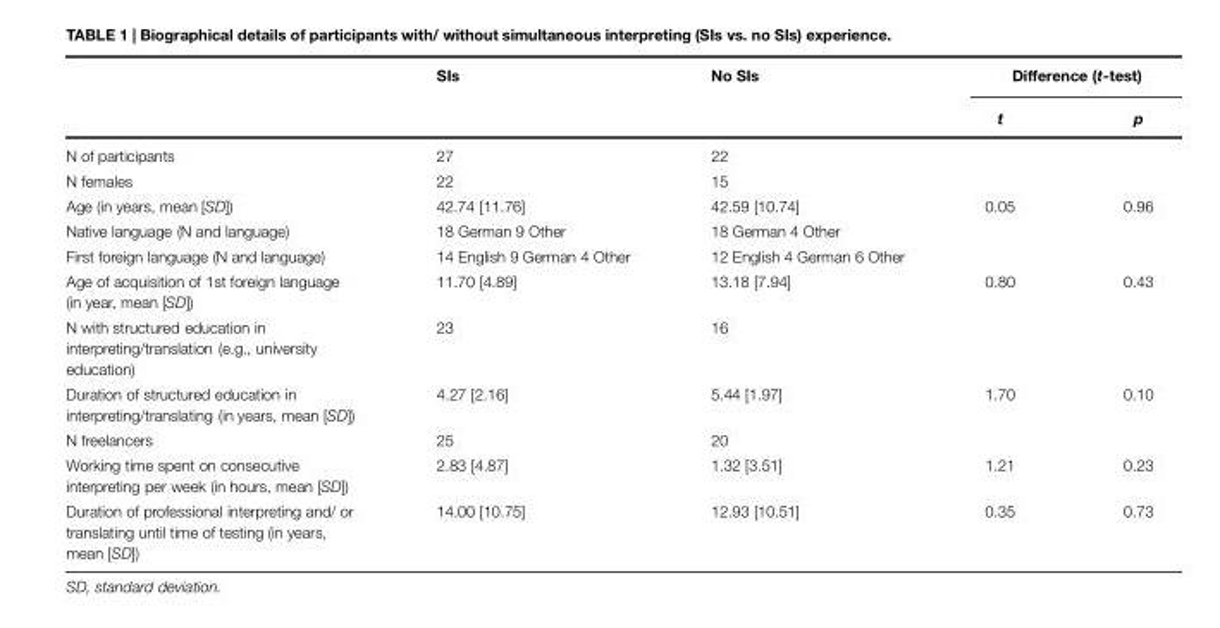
<table><thead><tr><td rowspan="2"></td><td rowspan="2">SIs</td><td rowspan="2">No SIs</td><td colspan="2">Difference (t-test)</td></tr><tr><td>t</td><td>p</td></tr></thead><tbody><tr><td>N of participants</td><td>27</td><td>22</td><td></td><td></td></tr><tr><td>N females</td><td>22</td><td>15</td><td></td><td></td></tr><tr><td>Age (in years, mean [SD])</td><td>42.74 [11.76]</td><td>42.59 [10.74]</td><td>0.05</td><td>0.96</td></tr><tr><td>Native language (N and language)</td><td>18 German 9 Other</td><td>18 German 4 Other</td><td></td><td></td></tr><tr><td>First foreign language (N and language)</td><td>14 English 9 German 4 Other</td><td>12 English 4 German 6 Other</td><td></td><td></td></tr><tr><td>Age of acquisition of 1st foreign language (in year, mean [SD])</td><td>11.70 [4.89]</td><td>13.18 [7.94]</td><td>0.80</td><td>0.43</td></tr><tr><td>N with structured education in interpreting/translation (e.g., university education)</td><td>23</td><td>16</td><td></td><td></td></tr><tr><td>Duration of structured education in interpreting/translating (in years, mean [SD])</td><td>4.27 [2.16]</td><td>5.44 [1.97]</td><td>1.70</td><td>0.10</td></tr><tr><td>N freelancers</td><td>25</td><td>20</td><td></td><td></td></tr><tr><td>Working time spent on consecutive interpreting per week (in hours, mean [SD])</td><td>2.83 [4.87]</td><td>1.32 [3.51]</td><td>1.21</td><td>0.23</td></tr><tr><td>Duration of professional interpreting and/ or translating until time of testing (in years, mean [SD])</td><td>14.00 [10.75]</td><td>12.93 [10.51]</td><td>0.35</td><td>0.73</td></tr></tbody></table>